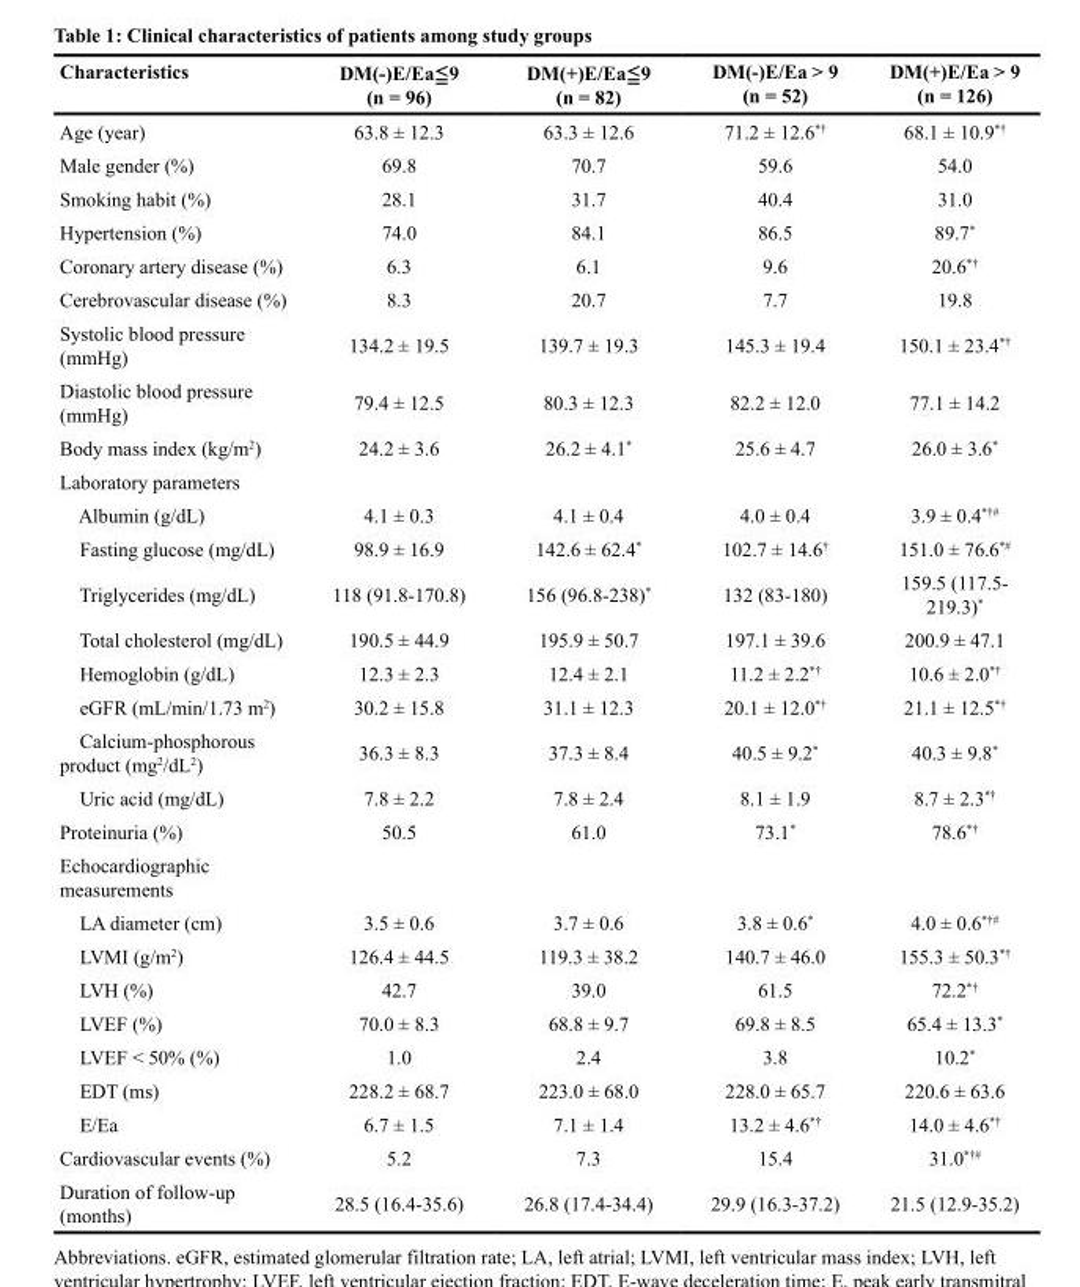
<table><thead><tr><td>Characteristics</td><td>DM(-)E/Ea≦9 (n = 96)</td><td>DM(+)E/Ea≦9 (n = 82)</td><td>DM(-)E/Ea &gt; 9 (n = 52)</td><td>DM(+)E/Ea &gt; 9 (n = 126)</td></tr></thead><tbody><tr><td>Age (year)</td><td>63.8 ± 12.3</td><td>63.3 ± 12.6</td><td>71.2 ± 12.6<sup>*†</sup></td><td>68.1 ± 10.9<sup>*†</sup></td></tr><tr><td>Male gender (%)</td><td>69.8</td><td>70.7</td><td>59.6</td><td>54.0</td></tr><tr><td>Smoking habit (%)</td><td>28.1</td><td>31.7</td><td>40.4</td><td>31.0</td></tr><tr><td>Hypertension (%)</td><td>74.0</td><td>84.1</td><td>86.5</td><td>89.7*</td></tr><tr><td>Coronary artery disease (%)</td><td>6.3</td><td>6.1</td><td>9.6</td><td>20.6<sup>*†</sup></td></tr><tr><td>Cerebrovascular disease (%)</td><td>8.3</td><td>20.7</td><td>7.7</td><td>19.8</td></tr><tr><td>Systolic blood pressure (mmHg)</td><td>134.2 ± 19.5</td><td>139.7 ± 19.3</td><td>145.3 ± 19.4</td><td>150.1 ± 23.4<sup>*†</sup></td></tr><tr><td>Diastolic blood pressure (mmHg)</td><td>79.4 ± 12.5</td><td>80.3 ± 12.3</td><td>82.2 ± 12.0</td><td>77.1 ± 14.2</td></tr><tr><td>Body mass index (kg/m<sup>2</sup>)</td><td>24.2 ± 3.6</td><td>26.2 ± 4.1*</td><td>25.6 ± 4.7</td><td>26.0 ± 3.6*</td></tr><tr><td colspan="5">Laboratory parameters</td></tr><tr><td>Albumin (g/dL)</td><td>4.1 ± 0.3</td><td>4.1 ± 0.4</td><td>4.0 ± 0.4</td><td>3.9 ± 0.4<sup>*†#</sup></td></tr><tr><td>Fasting glucose (mg/dL)</td><td>98.9 ± 16.9</td><td>142.6 ± 62.4*</td><td>102.7 ± 14.6<sup>†</sup></td><td>151.0 ± 76.6<sup>*#</sup></td></tr><tr><td>Triglycerides (mg/dL)</td><td>118 (91.8-170.8)</td><td>156 (96.8-238)*</td><td>132 (83-180)</td><td>159.5 (117.5- 219.3)*</td></tr><tr><td>Total cholesterol (mg/dL)</td><td>190.5 ± 44.9</td><td>195.9 ± 50.7</td><td>197.1 ± 39.6</td><td>200.9 ± 47.1</td></tr><tr><td>Hemoglobin (g/dL)</td><td>12.3 ± 2.3</td><td>12.4 ± 2.1</td><td>11.2 ± 2.2<sup>*†</sup></td><td>10.6 ± 2.0<sup>*†</sup></td></tr><tr><td>eGFR (mL/min/1.73 m<sup>2</sup>)</td><td>30.2 ± 15.8</td><td>31.1 ± 12.3</td><td>20.1 ± 12.0<sup>*†</sup></td><td>21.1 ± 12.5<sup>*†</sup></td></tr><tr><td>Calcium-phosphorous product (mg<sup>2</sup>/dL<sup>2</sup>)</td><td>36.3 ± 8.3</td><td>37.3 ± 8.4</td><td>40.5 ± 9.2*</td><td>40.3 ± 9.8*</td></tr><tr><td>Uric acid (mg/dL)</td><td>7.8 ± 2.2</td><td>7.8 ± 2.4</td><td>8.1 ± 1.9</td><td>8.7 ± 2.3<sup>*†</sup></td></tr><tr><td>Proteinuria (%)</td><td>50.5</td><td>61.0</td><td>73.1*</td><td>78.6<sup>*†</sup></td></tr><tr><td colspan="5">Echocardiographic measurements</td></tr><tr><td>LA diameter (cm)</td><td>3.5 ± 0.6</td><td>3.7 ± 0.6</td><td>3.8 ± 0.6*</td><td>4.0 ± 0.6<sup>*†#</sup></td></tr><tr><td>LVMI (g/m<sup>2</sup>)</td><td>126.4 ± 44.5</td><td>119.3 ± 38.2</td><td>140.7 ± 46.0</td><td>155.3 ± 50.3<sup>*†</sup></td></tr><tr><td>LVH (%)</td><td>42.7</td><td>39.0</td><td>61.5</td><td>72.2<sup>*†</sup></td></tr><tr><td>LVEF (%)</td><td>70.0 ± 8.3</td><td>68.8 ± 9.7</td><td>69.8 ± 8.5</td><td>65.4 ± 13.3*</td></tr><tr><td>LVEF &lt; 50% (%)</td><td>1.0</td><td>2.4</td><td>3.8</td><td>10.2*</td></tr><tr><td>EDT (ms)</td><td>228.2 ± 68.7</td><td>223.0 ± 68.0</td><td>228.0 ± 65.7</td><td>220.6 ± 63.6</td></tr><tr><td>E/Ea</td><td>6.7 ± 1.5</td><td>7.1 ± 1.4</td><td>13.2 ± 4.6<sup>*†</sup></td><td>14.0 ± 4.6<sup>*†</sup></td></tr><tr><td>Cardiovascular events (%)</td><td>5.2</td><td>7.3</td><td>15.4</td><td>31.0<sup>*†#</sup></td></tr><tr><td>Duration of follow-up (months)</td><td>28.5 (16.4-35.6)</td><td>26.8 (17.4-34.4)</td><td>29.9 (16.3-37.2)</td><td>21.5 (12.9-35.2)</td></tr></tbody></table>